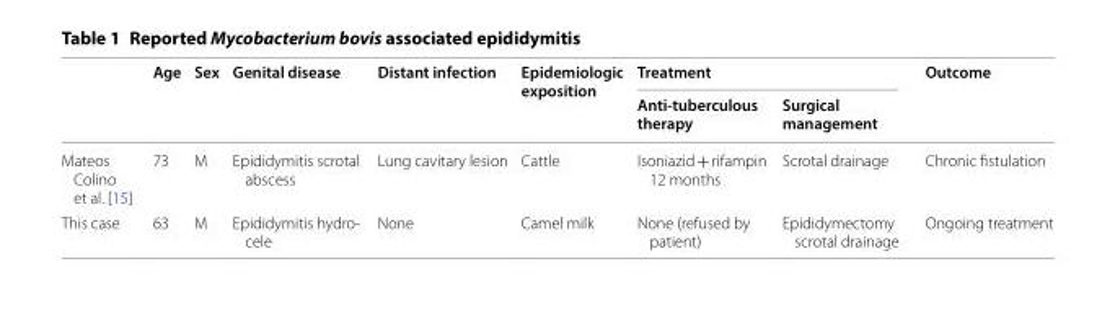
<table><thead><tr><td rowspan="2"></td><td rowspan="2">Age</td><td rowspan="2">Sex</td><td rowspan="2">Genital disease</td><td rowspan="2">Distant infection</td><td rowspan="2">Epidemiologic exposition</td><td colspan="2">Treatment</td><td rowspan="2">Outcome</td></tr><tr><td>Anti-tuberculous therapy</td><td>Surgical management</td></tr></thead><tbody><tr><td>Mateos Colino et al. [15]</td><td>73</td><td>M</td><td>Epididymitis scrotal abscess</td><td>Lung cavitary lesion</td><td>Cattle</td><td>Isoniazid + rifampin 12 months</td><td>Scrotal drainage</td><td>Chronic fistulation</td></tr><tr><td>This case</td><td>63</td><td>M</td><td>Epididymitis hydro‑ cele</td><td>None</td><td>Camel milk</td><td>None (refused by patient)</td><td>Epididymectomy scrotal drainage</td><td>Ongoing treatment</td></tr></tbody></table>